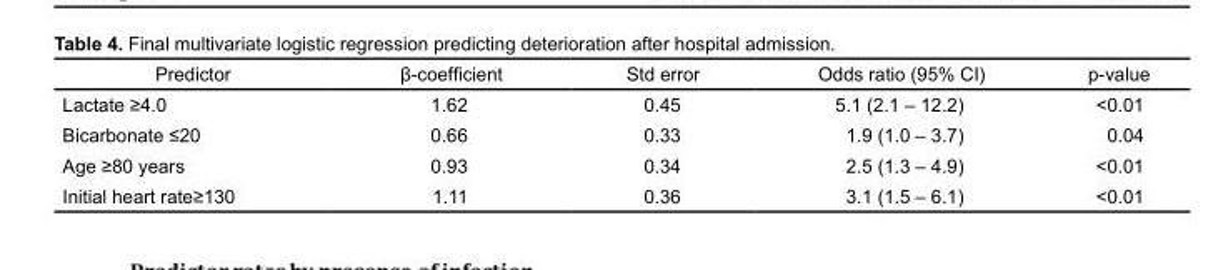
<table><thead><tr><td>Predictor</td><td>β-coefficient</td><td>Std error</td><td>Odds ratio (95% CI)</td><td>p-value</td></tr></thead><tbody><tr><td>Lactate ≥4.0</td><td>1.62</td><td>0.45</td><td>5.1 (2.1 – 12.2)</td><td>&lt;0.01</td></tr><tr><td>Bicarbonate ≤20</td><td>0.66</td><td>0.33</td><td>1.9 (1.0 – 3.7)</td><td>0.04</td></tr><tr><td>Age ≥80 years</td><td>0.93</td><td>0.34</td><td>2.5 (1.3 – 4.9)</td><td>&lt;0.01</td></tr><tr><td>Initial heart rate≥130</td><td>1.11</td><td>0.36</td><td>3.1 (1.5 – 6.1)</td><td>&lt;0.01</td></tr></tbody></table>